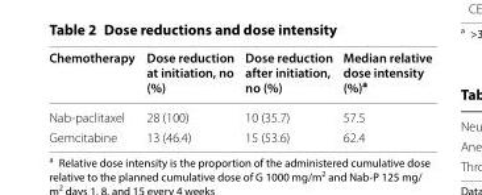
<table><thead><tr><td>Chemotherapy</td><td>Dose reduction at initiation, no (%)</td><td>Dose reduction after initiation, no (%)</td><td>Median relative dose intensity (%)<sup>a</sup></td></tr></thead><tbody><tr><td>Nab-paclitaxel</td><td>28 (100)</td><td>10 (35.7)</td><td>57.5</td></tr><tr><td>Gemcitabine</td><td>13 (46.4)</td><td>15 (53.6)</td><td>62.4</td></tr></tbody></table>